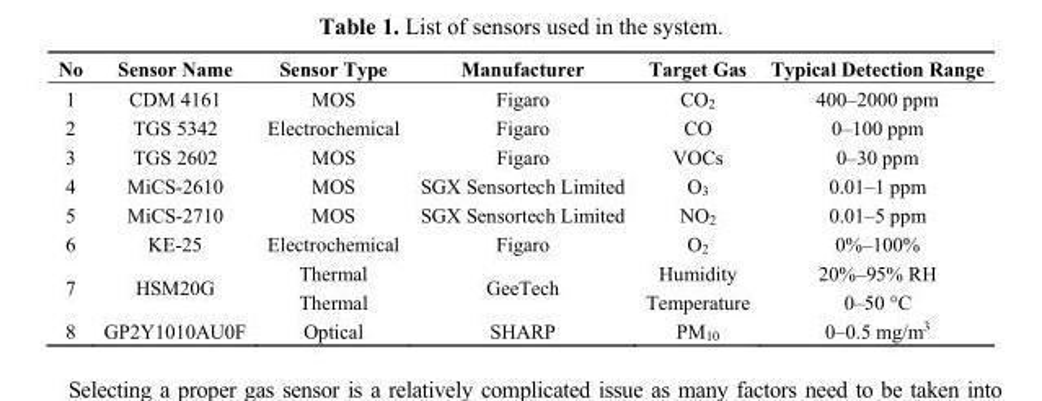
<table><thead><tr><td>No</td><td>Sensor Name</td><td>Sensor Type</td><td>Manufacturer</td><td>Target Gas</td><td>Typical Detection Range</td></tr></thead><tbody><tr><td>1</td><td>CDM 4161</td><td>MOS</td><td>Figaro</td><td>CO<sub>2</sub></td><td>400–2000 ppm</td></tr><tr><td>2</td><td>TGS 5342</td><td>Electrochemical</td><td>Figaro</td><td>CO</td><td>0–100 ppm</td></tr><tr><td>3</td><td>TGS 2602</td><td>MOS</td><td>Figaro</td><td>VOCs</td><td>0–30 ppm</td></tr><tr><td>4</td><td>MiCS-2610</td><td>MOS</td><td>SGX Sensortech Limited</td><td>O<sub>3</sub></td><td>0.01–1 ppm</td></tr><tr><td>5</td><td>MiCS-2710</td><td>MOS</td><td>SGX Sensortech Limited</td><td>NO<sub>2</sub></td><td>0.01–5 ppm</td></tr><tr><td>6</td><td>KE-25</td><td>Electrochemical</td><td>Figaro</td><td>O<sub>2</sub></td><td>0%–100%</td></tr><tr><td rowspan="2">7</td><td rowspan="2">HSM20G</td><td>Thermal</td><td rowspan="2">GeeTech</td><td>Humidity</td><td>20%–95% RH</td></tr><tr><td>Thermal</td><td>Temperature</td><td>0–50 °C</td></tr><tr><td>8</td><td>GP2Y1010AU0F</td><td>Optical</td><td>SHARP</td><td>PM<sub>10</sub></td><td>0–0.5 mg/m<sup>3</sup></td></tr></tbody></table>